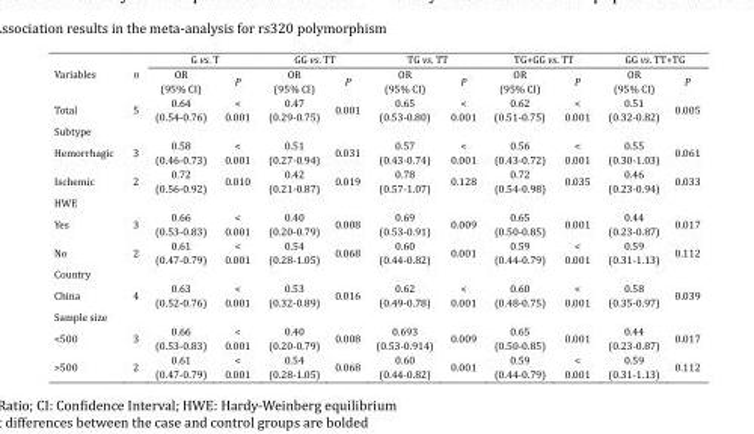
<table><thead><tr><td rowspan="2">Variables</td><td rowspan="2">n</td><td colspan="2">G vs. T</td><td colspan="2">GG vs. TT</td><td colspan="2">TG vs. TT</td><td colspan="2">TG+GG vs. TT</td><td colspan="2">GG vs. TT+TG</td></tr><tr><td>OR (95% CI)</td><td>P</td><td>OR (95% CI)</td><td>P</td><td>OR (95% CI)</td><td>P</td><td>OR (95% CI)</td><td>P</td><td>OR (95% CI)</td><td>P</td></tr></thead><tbody><tr><td>Total</td><td>5</td><td>0.64 (0.54-0.76)</td><td>&lt; 0.001</td><td>0.47 (0.29-0.75)</td><td>0.001</td><td>0.65 (0.53-0.80)</td><td>&lt; 0.001</td><td>0.62 (0.51-0.75)</td><td>&lt; 0.001</td><td>0.51 (0.32-0.82)</td><td>0.005</td></tr><tr><td colspan="12">Subtype</td></tr><tr><td>Hemorrhagic</td><td>3</td><td>0.58 (0.46-0.73)</td><td>&lt; 0.001</td><td>0.51 (0.27-0.94)</td><td>0.031</td><td>0.57 (0.43-0.74)</td><td>&lt; 0.001</td><td>0.56 (0.43-0.72)</td><td>&lt; 0.001</td><td>0.55 (0.30-1.03)</td><td>0.061</td></tr><tr><td>Ischemic</td><td>2</td><td>0.72 (0.56-0.92)</td><td>0.010</td><td>0.42 (0.21-0.87)</td><td>0.019</td><td>0.78 (0.57-1.07)</td><td>0.128</td><td>0.72 (0.54-0.98)</td><td>0.035</td><td>0.46 (0.23-0.94)</td><td>0.033</td></tr><tr><td colspan="12">HWE</td></tr><tr><td>Yes</td><td>3</td><td>0.66 (0.53-0.83)</td><td>&lt; 0.001</td><td>0.40 (0.20-0.79)</td><td>0.008</td><td>0.69 (0.53-0.91)</td><td>0.009</td><td>0.65 (0.50-0.85)</td><td>0.001</td><td>0.44 (0.23-0.87)</td><td>0.017</td></tr><tr><td>No</td><td>2</td><td>0.61 (0.47-0.79)</td><td>&lt; 0.001</td><td>0.54 (0.28-1.05)</td><td>0.068</td><td>0.60 (0.44-0.82)</td><td>0.001</td><td>0.59 (0.44-0.79)</td><td>&lt; 0.001</td><td>0.59 (0.31-1.13)</td><td>0.112</td></tr><tr><td colspan="12">Country</td></tr><tr><td>China</td><td>4</td><td>0.63 (0.52-0.76)</td><td>&lt; 0.001</td><td>0.53 (0.32-0.89)</td><td>0.016</td><td>0.62 (0.49-0.78)</td><td>&lt; 0.001</td><td>0.60 (0.48-0.75)</td><td>&lt; 0.001</td><td>0.58 (0.35-0.97)</td><td>0.039</td></tr><tr><td colspan="12">Sample size</td></tr><tr><td>&lt;500</td><td>3</td><td>0.66 (0.53-0.83)</td><td>&lt; 0.001</td><td>0.40 (0.20-0.79)</td><td>0.008</td><td>0.693 (0.53-0.914)</td><td>0.009</td><td>0.65 (0.50-0.85)</td><td>0.001</td><td>0.44 (0.23-0.87)</td><td>0.017</td></tr><tr><td>&gt;500</td><td>2</td><td>0.61 (0.47-0.79)</td><td>&lt; 0.001</td><td>0.54 (0.28-1.05)</td><td>0.068</td><td>0.60 (0.44-0.82)</td><td>0.001</td><td>0.59 (0.44-0.79)</td><td>&lt; 0.001</td><td>0.59 (0.31-1.13)</td><td>0.112</td></tr></tbody></table>